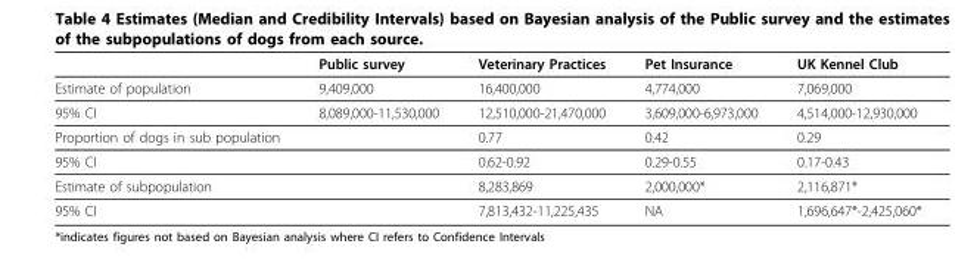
<table><thead><tr><td></td><td>Public survey</td><td>Veterinary Practices</td><td>Pet Insurance</td><td>UK Kennel Club</td></tr></thead><tbody><tr><td>Estimate of population</td><td>9,409,000</td><td>16,400,000</td><td>4,774,000</td><td>7,069,000</td></tr><tr><td>95% CI</td><td>8,089,000-11,530,000</td><td>12,510,000-21,470,000</td><td>3,609,000-6,973,000</td><td>4,514,000-12,930,000</td></tr><tr><td>Proportion of dogs in sub population</td><td></td><td>0.77</td><td>0.42</td><td>0.29</td></tr><tr><td>95% CI</td><td></td><td>0.62-0.92</td><td>0.29-0.55</td><td>0.17-0.43</td></tr><tr><td>Estimate of subpopulation</td><td></td><td>8,283,869</td><td>2,000,000*</td><td>2,116,871*</td></tr><tr><td>95% CI</td><td></td><td>7,813,432-11,225,435</td><td>NA</td><td>1,696,647*-2,425,060*</td></tr></tbody></table>